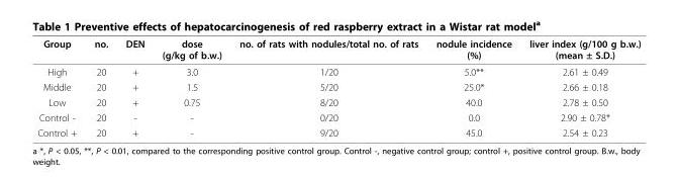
<table><thead><tr><td>Group</td><td>no.</td><td>DEN</td><td>dose (g/kg of b.w.)</td><td>no. of rats with nodules/total no. of rats</td><td>nodule incidence (%)</td><td>liver index (g/100 g b.w.) (mean ± S.D.)</td></tr></thead><tbody><tr><td>High</td><td>20</td><td>+</td><td>3.0</td><td>1/20</td><td>5.0**</td><td>2.61 ± 0.49</td></tr><tr><td>Middle</td><td>20</td><td>+</td><td>1.5</td><td>5/20</td><td>25.0*</td><td>2.66 ± 0.18</td></tr><tr><td>Low</td><td>20</td><td>+</td><td>0.75</td><td>8/20</td><td>40.0</td><td>2.78 ± 0.50</td></tr><tr><td>Control -</td><td>20</td><td>-</td><td>-</td><td>0/20</td><td>0.0</td><td>2.90 ± 0.78*</td></tr><tr><td>Control +</td><td>20</td><td>+</td><td>-</td><td>9/20</td><td>45.0</td><td>2.54 ± 0.23</td></tr></tbody></table>